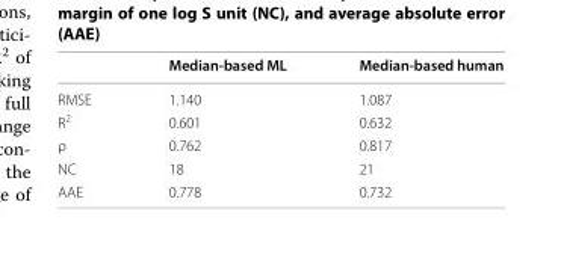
<table><thead><tr><td></td><td>Median‑based ML</td><td>Median‑based human</td></tr></thead><tbody><tr><td>RMSE</td><td>1.140</td><td>1.087</td></tr><tr><td>R<sup>2</sup></td><td>0.601</td><td>0.632</td></tr><tr><td>ρ</td><td>0.762</td><td>0.817</td></tr><tr><td>NC</td><td>18</td><td>21</td></tr><tr><td>AAE</td><td>0.778</td><td>0.732</td></tr></tbody></table>